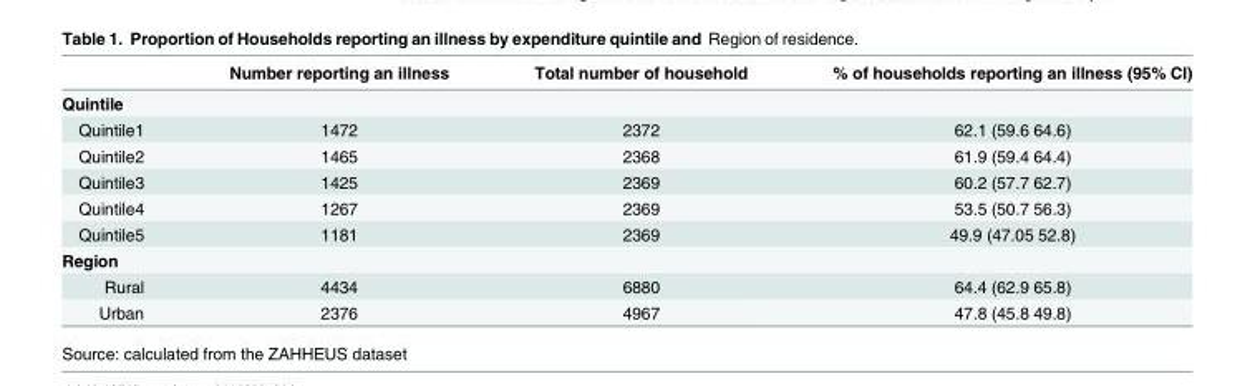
<table><thead><tr><td></td><td>Number reporting an illness</td><td>Total number of household</td><td>% of households reporting an illness (95% CI)</td></tr></thead><tbody><tr><td colspan="4">Quintile</td></tr><tr><td>Quintile1</td><td>1472</td><td>2372</td><td>62.1 (59.6 64.6)</td></tr><tr><td>Quintile2</td><td>1465</td><td>2368</td><td>61.9 (59.4 64.4)</td></tr><tr><td>Quintile3</td><td>1425</td><td>2369</td><td>60.2 (57.7 62.7)</td></tr><tr><td>Quintile4</td><td>1267</td><td>2369</td><td>53.5 (50.7 56.3)</td></tr><tr><td>Quintile5</td><td>1181</td><td>2369</td><td>49.9 (47.05 52.8)</td></tr><tr><td colspan="4">Region</td></tr><tr><td>Rural</td><td>4434</td><td>6880</td><td>64.4 (62.9 65.8)</td></tr><tr><td>Urban</td><td>2376</td><td>4967</td><td>47.8 (45.8 49.8)</td></tr></tbody></table>